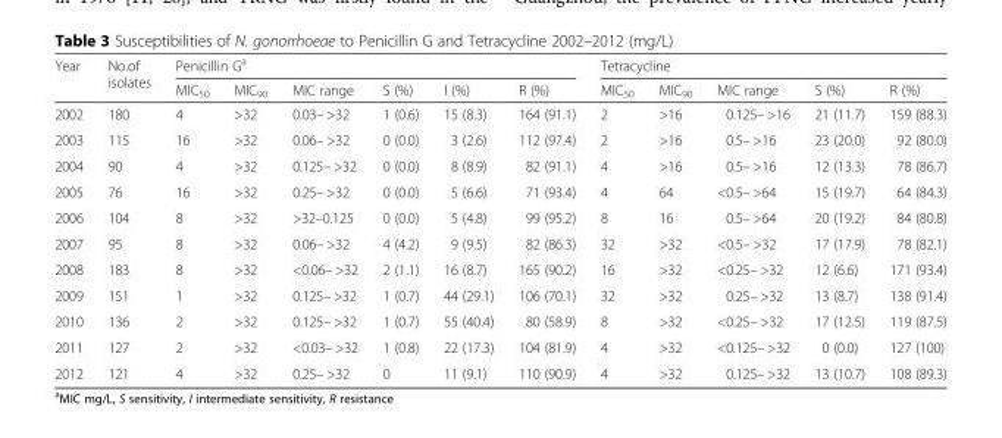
<table><thead><tr><td rowspan="2">Year</td><td rowspan="2">No.of isolates</td><td colspan="6">Penicillin G<sup>a</sup></td><td colspan="5">Tetracycline</td></tr><tr><td>MIC<sub>50</sub></td><td>MIC<sub>90</sub></td><td>MIC range</td><td>S (%)</td><td>I (%)</td><td>R (%)</td><td>MIC<sub>50</sub></td><td>MIC<sub>90</sub></td><td>MIC range</td><td>S (%)</td><td>R (%)</td></tr></thead><tbody><tr><td>2002</td><td>180</td><td>4</td><td>&gt;32</td><td>0.03– &gt;32</td><td>1 (0.6)</td><td>15 (8.3)</td><td>164 (91.1)</td><td>2</td><td>&gt;16</td><td>0.125– &gt;16</td><td>21 (11.7)</td><td>159 (88.3)</td></tr><tr><td>2003</td><td>115</td><td>16</td><td>&gt;32</td><td>0.06– &gt;32</td><td>0 (0.0)</td><td>3 (2.6)</td><td>112 (97.4)</td><td>2</td><td>&gt;16</td><td>0.5– &gt;16</td><td>23 (20.0)</td><td>92 (80.0)</td></tr><tr><td>2004</td><td>90</td><td>4</td><td>&gt;32</td><td>0.125– &gt;32</td><td>0 (0.0)</td><td>8 (8.9)</td><td>82 (91.1)</td><td>4</td><td>&gt;16</td><td>0.5– &gt;16</td><td>12 (13.3)</td><td>78 (86.7)</td></tr><tr><td>2005</td><td>76</td><td>16</td><td>&gt;32</td><td>0.25– &gt;32</td><td>0 (0.0)</td><td>5 (6.6)</td><td>71 (93.4)</td><td>4</td><td>64</td><td>&lt;0.5– &gt;64</td><td>15 (19.7)</td><td>64 (84.3)</td></tr><tr><td>2006</td><td>104</td><td>8</td><td>&gt;32</td><td>&gt;32–0.125</td><td>0 (0.0)</td><td>5 (4.8)</td><td>99 (95.2)</td><td>8</td><td>16</td><td>0.5– &gt;64</td><td>20 (19.2)</td><td>84 (80.8)</td></tr><tr><td>2007</td><td>95</td><td>8</td><td>&gt;32</td><td>0.06– &gt;32</td><td>4 (4.2)</td><td>9 (9.5)</td><td>82 (86.3)</td><td>32</td><td>&gt;32</td><td>&lt;0.5– &gt;32</td><td>17 (17.9)</td><td>78 (82.1)</td></tr><tr><td>2008</td><td>183</td><td>8</td><td>&gt;32</td><td>&lt;0.06– &gt;32</td><td>2 (1.1)</td><td>16 (8.7)</td><td>165 (90.2)</td><td>16</td><td>&gt;32</td><td>&lt;0.25– &gt;32</td><td>12 (6.6)</td><td>171 (93.4)</td></tr><tr><td>2009</td><td>151</td><td>1</td><td>&gt;32</td><td>0.125– &gt;32</td><td>1 (0.7)</td><td>44 (29.1)</td><td>106 (70.1)</td><td>32</td><td>&gt;32</td><td>0.25– &gt;32</td><td>13 (8.7)</td><td>138 (91.4)</td></tr><tr><td>2010</td><td>136</td><td>2</td><td>&gt;32</td><td>0.125– &gt;32</td><td>1 (0.7)</td><td>55 (40.4)</td><td>80 (58.9)</td><td>8</td><td>&gt;32</td><td>&lt;0.25– &gt;32</td><td>17 (12.5)</td><td>119 (87.5)</td></tr><tr><td>2011</td><td>127</td><td>2</td><td>&gt;32</td><td>&lt;0.03– &gt;32</td><td>1 (0.8)</td><td>22 (17.3)</td><td>104 (81.9)</td><td>4</td><td>&gt;32</td><td>&lt;0.125– &gt;32</td><td>0 (0.0)</td><td>127 (100)</td></tr><tr><td>2012</td><td>121</td><td>4</td><td>&gt;32</td><td>0.25– &gt;32</td><td>0</td><td>11 (9.1)</td><td>110 (90.9)</td><td>4</td><td>&gt;32</td><td>0.125– &gt;32</td><td>13 (10.7)</td><td>108 (89.3)</td></tr></tbody></table>